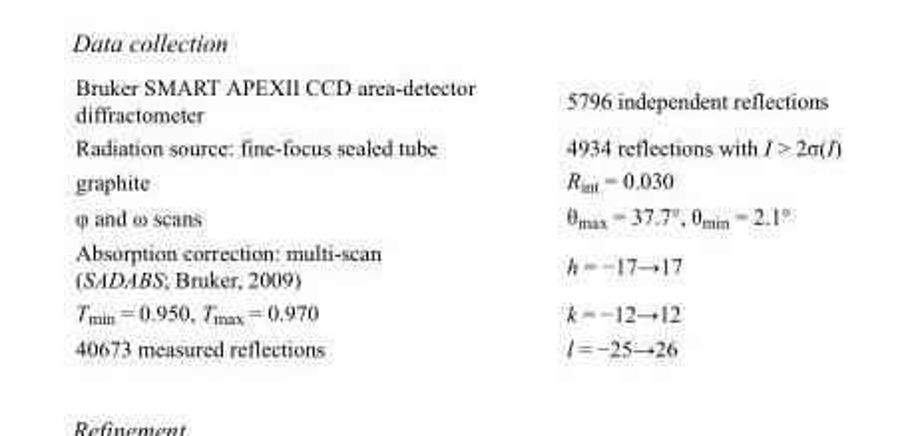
<table><tbody><tr><td>Bruker SMART APEXII CCD area-detector diffractometer</td><td>5796 independent reflections</td></tr><tr><td>Radiation source: fine-focus sealed tube</td><td>4934 reflections with I &gt; 2σ(I)</td></tr><tr><td>graphite</td><td>R<sub>int</sub> = 0.030</td></tr><tr><td>φ and ω scans</td><td>θ<sub>max</sub> = 37.7°, θ<sub>min</sub> = 2.1°</td></tr><tr><td>Absorption correction: multi-scan (SADABS; Bruker, 2009)</td><td>h = −17→17</td></tr><tr><td>T<sub>min</sub> = 0.950, T<sub>max</sub> = 0.970</td><td>k = −12→12</td></tr><tr><td>40673 measured reflections</td><td>l = −25→26</td></tr></tbody></table>